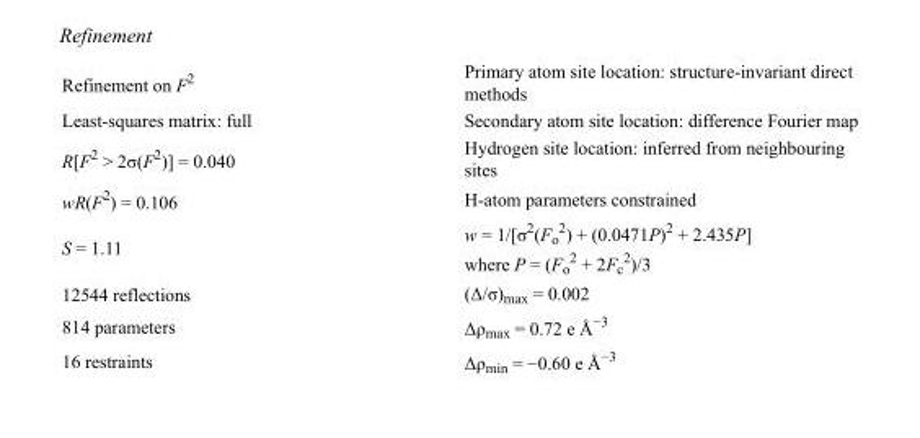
<table><tbody><tr><td>Refinement on F<sup>2</sup></td><td>Primary atom site location: structure-invariant direct methods</td></tr><tr><td>Least-squares matrix: full</td><td>Secondary atom site location: difference Fourier map</td></tr><tr><td>R[F<sup>2</sup> &gt; 2σ(F<sup>2</sup>)] = 0.040</td><td>Hydrogen site location: inferred from neighbouring sites</td></tr><tr><td>wR(F<sup>2</sup>) = 0.106</td><td>H-atom parameters constrained</td></tr><tr><td>S = 1.11</td><td>w = 1/[σ<sup>2</sup>(F<sub>o</sub> <sup>2</sup>) + (0.0471P)<sup>2</sup> + 2.435P] where P = (F<sub>o</sub> <sup>2</sup> + 2F<sub>c</sub> <sup>2</sup>)/3</td></tr><tr><td>12544 reflections</td><td>(Δ/σ)<sub>max</sub> = 0.002</td></tr><tr><td>814 parameters</td><td>Δρ<sub>max</sub> = 0.72 e Å<sup>−3</sup></td></tr><tr><td>16 restraints</td><td>Δρ<sub>min</sub> = −0.60 e Å<sup>−3</sup></td></tr></tbody></table>